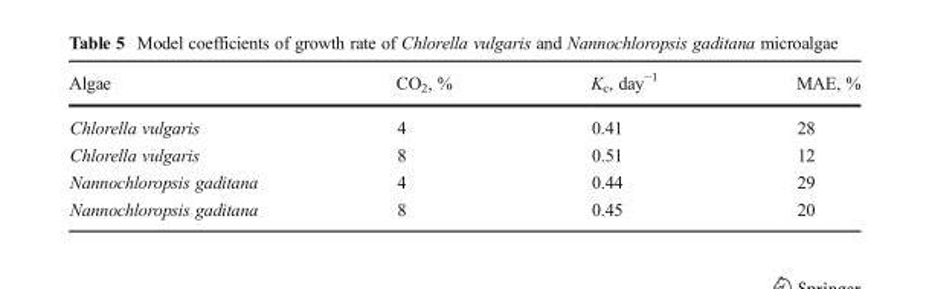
<table><thead><tr><td>Algae</td><td>CO<sub>2</sub>, %</td><td>K<sub>c</sub>, day<sup>−1</sup></td><td>MAE, %</td></tr></thead><tbody><tr><td>Chlorella vulgaris</td><td>4</td><td>0.41</td><td>28</td></tr><tr><td>Chlorella vulgaris</td><td>8</td><td>0.51</td><td>12</td></tr><tr><td>Nannochloropsis gaditana</td><td>4</td><td>0.44</td><td>29</td></tr><tr><td>Nannochloropsis gaditana</td><td>8</td><td>0.45</td><td>20</td></tr></tbody></table>